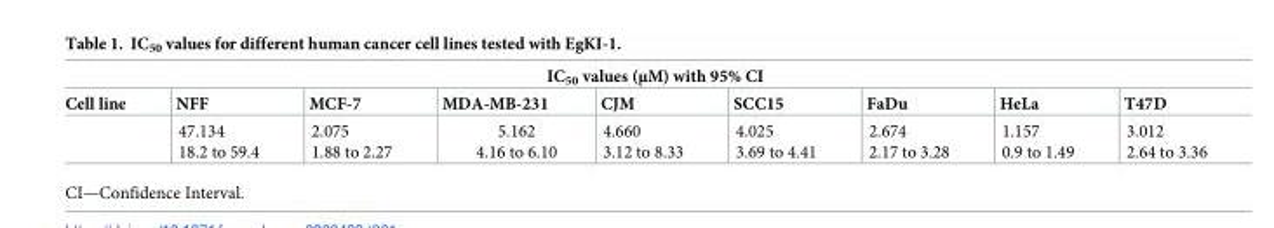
<table><thead><tr><td colspan="9">IC<sub>50</sub> values (μM) with 95% CI</td></tr><tr><td>Cell line</td><td>NFF</td><td>MCF-7</td><td>MDA-MB-231</td><td>CJM</td><td>SCC15</td><td>FaDu</td><td>HeLa</td><td>T47D</td></tr></thead><tbody><tr><td></td><td>47.134 18.2 to 59.4</td><td>2.075 1.88 to 2.27</td><td>5.162 4.16 to 6.10</td><td>4.660 3.12 to 8.33</td><td>4.025 3.69 to 4.41</td><td>2.674 2.17 to 3.28</td><td>1.157 0.9 to 1.49</td><td>3.012 2.64 to 3.36</td></tr></tbody></table>